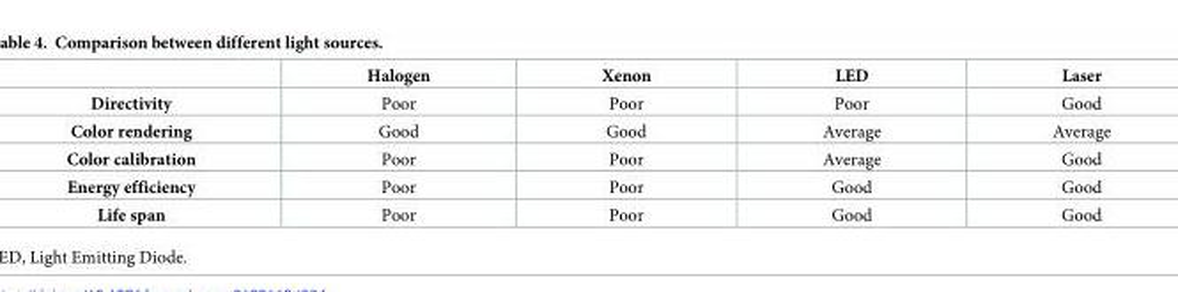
<table><thead><tr><td></td><td>Halogen</td><td>Xenon</td><td>LED</td><td>Laser</td></tr></thead><tbody><tr><td>Directivity</td><td>Poor</td><td>Poor</td><td>Poor</td><td>Good</td></tr><tr><td>Color rendering</td><td>Good</td><td>Good</td><td>Average</td><td>Average</td></tr><tr><td>Color calibration</td><td>Poor</td><td>Poor</td><td>Average</td><td>Good</td></tr><tr><td>Energy efficiency</td><td>Poor</td><td>Poor</td><td>Good</td><td>Good</td></tr><tr><td>Life span</td><td>Poor</td><td>Poor</td><td>Good</td><td>Good</td></tr></tbody></table>